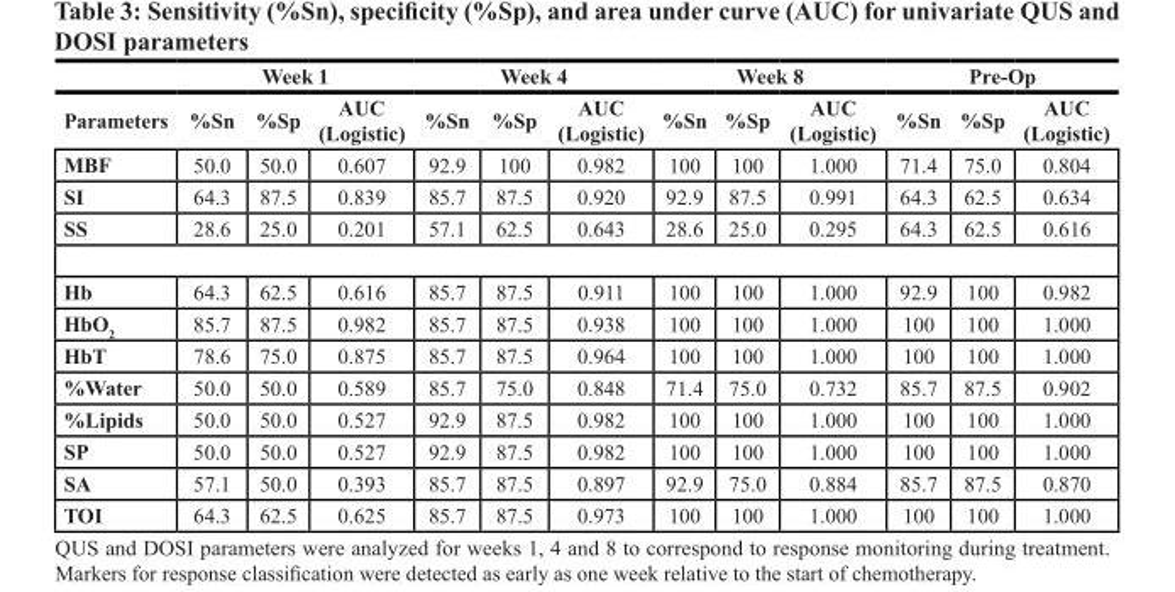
<table><thead><tr><td rowspan="2">Parameters</td><td colspan="3">Week 1</td><td colspan="3">Week 4</td><td colspan="3">Week 8</td><td colspan="3">Pre-Op</td></tr><tr><td>%Sn</td><td>%Sp</td><td>AUC (Logistic)</td><td>%Sn</td><td>%Sp</td><td>AUC (Logistic)</td><td>%Sn</td><td>%Sp</td><td>AUC (Logistic)</td><td>%Sn</td><td>%Sp</td><td>AUC (Logistic)</td></tr></thead><tbody><tr><td>MBF</td><td>50.0</td><td>50.0</td><td>0.607</td><td>92.9</td><td>100</td><td>0.982</td><td>100</td><td>100</td><td>1.000</td><td>71.4</td><td>75.0</td><td>0.804</td></tr><tr><td>SI</td><td>64.3</td><td>87.5</td><td>0.839</td><td>85.7</td><td>87.5</td><td>0.920</td><td>92.9</td><td>87.5</td><td>0.991</td><td>64.3</td><td>62.5</td><td>0.634</td></tr><tr><td>SS</td><td>28.6</td><td>25.0</td><td>0.201</td><td>57.1</td><td>62.5</td><td>0.643</td><td>28.6</td><td>25.0</td><td>0.295</td><td>64.3</td><td>62.5</td><td>0.616</td></tr><tr><td>Hb</td><td>64.3</td><td>62.5</td><td>0.616</td><td>85.7</td><td>87.5</td><td>0.911</td><td>100</td><td>100</td><td>1.000</td><td>92.9</td><td>100</td><td>0.982</td></tr><tr><td>HbO<sub>2</sub></td><td>85.7</td><td>87.5</td><td>0.982</td><td>85.7</td><td>87.5</td><td>0.938</td><td>100</td><td>100</td><td>1.000</td><td>100</td><td>100</td><td>1.000</td></tr><tr><td>HbT</td><td>78.6</td><td>75.0</td><td>0.875</td><td>85.7</td><td>87.5</td><td>0.964</td><td>100</td><td>100</td><td>1.000</td><td>100</td><td>100</td><td>1.000</td></tr><tr><td>%Water</td><td>50.0</td><td>50.0</td><td>0.589</td><td>85.7</td><td>75.0</td><td>0.848</td><td>71.4</td><td>75.0</td><td>0.732</td><td>85.7</td><td>87.5</td><td>0.902</td></tr><tr><td>%Lipids</td><td>50.0</td><td>50.0</td><td>0.527</td><td>92.9</td><td>87.5</td><td>0.982</td><td>100</td><td>100</td><td>1.000</td><td>100</td><td>100</td><td>1.000</td></tr><tr><td>SP</td><td>50.0</td><td>50.0</td><td>0.527</td><td>92.9</td><td>87.5</td><td>0.982</td><td>100</td><td>100</td><td>1.000</td><td>100</td><td>100</td><td>1.000</td></tr><tr><td>SA</td><td>57.1</td><td>50.0</td><td>0.393</td><td>85.7</td><td>87.5</td><td>0.897</td><td>92.9</td><td>75.0</td><td>0.884</td><td>85.7</td><td>87.5</td><td>0.870</td></tr><tr><td>TOI</td><td>64.3</td><td>62.5</td><td>0.625</td><td>85.7</td><td>87.5</td><td>0.973</td><td>100</td><td>100</td><td>1.000</td><td>100</td><td>100</td><td>1.000</td></tr></tbody></table>